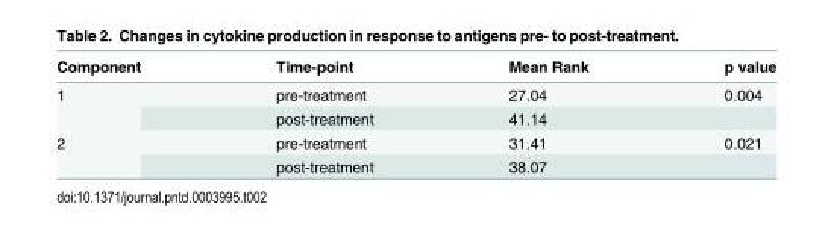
<table><thead><tr><td>Component</td><td>Time-point</td><td>Mean Rank</td><td>p value</td></tr></thead><tbody><tr><td rowspan="2">1</td><td>pre-treatment</td><td>27.04</td><td>0.004</td></tr><tr><td>post-treatment</td><td>41.14</td><td></td></tr><tr><td rowspan="2">2</td><td>pre-treatment</td><td>31.41</td><td>0.021</td></tr><tr><td>post-treatment</td><td>38.07</td><td></td></tr></tbody></table>